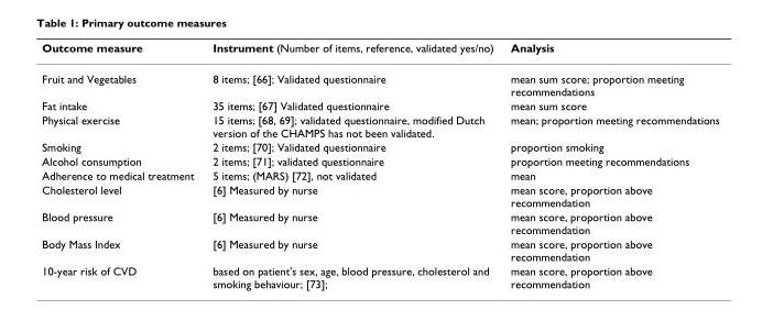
<table><thead><tr><td>Outcome measure</td><td>Instrument (Number of items, reference, validated yes/no)</td><td>Analysis</td></tr></thead><tbody><tr><td>Fruit and Vegetables</td><td>8 items; [66]; Validated questionnaire</td><td>mean sum score; proportion meeting recommendations</td></tr><tr><td>Fat intake</td><td>35 items; [67] Validated questionnaire</td><td>mean sum score</td></tr><tr><td>Physical exercise</td><td>15 items; [68, 69]; validated questionnaire, modified Dutch version of the CHAMPS has not been validated.</td><td>mean; proportion meeting recommendations</td></tr><tr><td>Smoking</td><td>2 items; [70]; Validated questionnaire</td><td>proportion smoking</td></tr><tr><td>Alcohol consumption</td><td>2 items; [71]; validated questionnaire</td><td>proportion meeting recommendations</td></tr><tr><td>Adherence to medical treatment</td><td>5 items; (MARS) [72], not validated</td><td>mean</td></tr><tr><td>Cholesterol level</td><td>[6] Measured by nurse</td><td>mean score, proportion above recommendation</td></tr><tr><td>Blood pressure</td><td>[6] Measured by nurse</td><td>mean score, proportion above recommendation</td></tr><tr><td>Body Mass Index</td><td>[6] Measured by nurse</td><td>mean score, proportion above recommendation</td></tr><tr><td>10-year risk of CVD</td><td>based on patient&#x27;s sex, age, blood pressure, cholesterol and smoking behaviour; [73];</td><td>mean score, proportion above recommendation</td></tr></tbody></table>